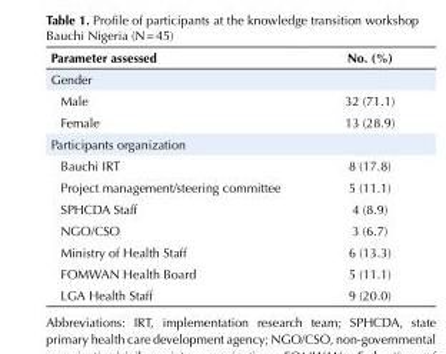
<table><tbody><tr><td>Parameter assessed</td><td>No. (%)</td></tr><tr><td colspan="2">Gender</td></tr><tr><td>Male</td><td>32 (71.1)</td></tr><tr><td>Female</td><td>13 (28.9)</td></tr><tr><td colspan="2">Participants organization</td></tr><tr><td>Bauchi IRT</td><td>8 (17.8)</td></tr><tr><td>Project management/steering committee</td><td>5 (11.1)</td></tr><tr><td>SPHCDA Staff</td><td>4 (8.9)</td></tr><tr><td>NGO/CSO</td><td>3 (6.7)</td></tr><tr><td>Ministry of Health Staff</td><td>6 (13.3)</td></tr><tr><td>FOMWAN Health Board</td><td>5 (11.1)</td></tr><tr><td>LGA Health Staff</td><td>9 (20.0)</td></tr></tbody></table>